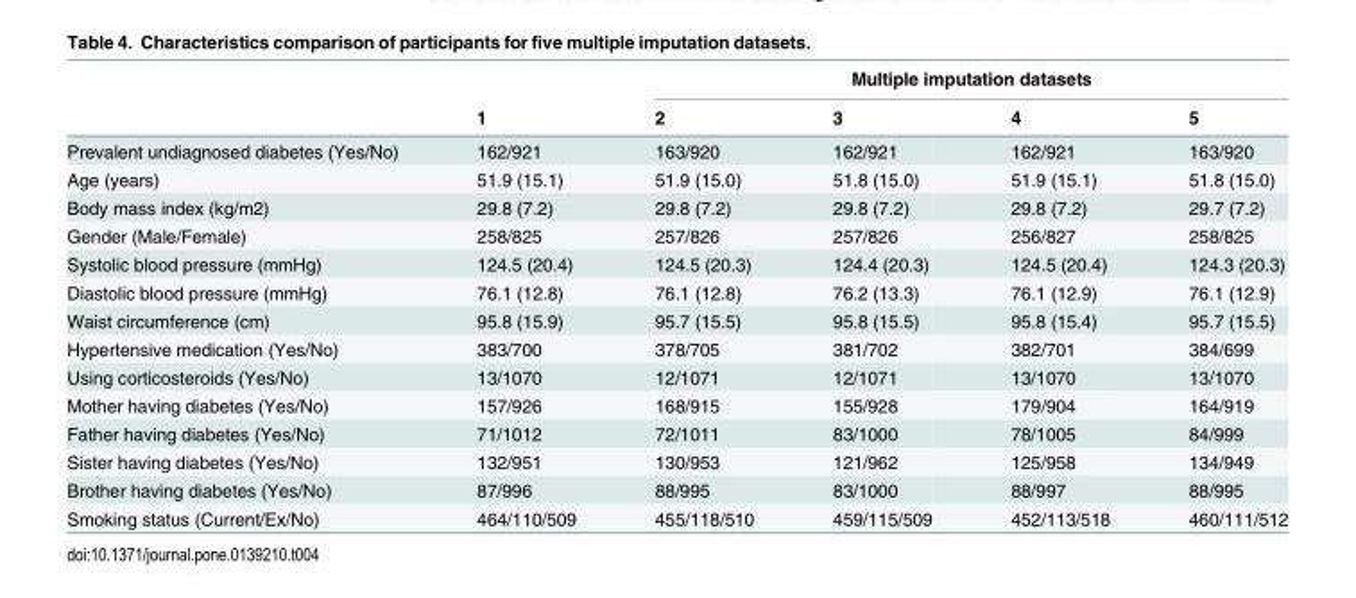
<table><thead><tr><td rowspan="2"></td><td rowspan="2">1</td><td colspan="4">Multiple imputation datasets</td></tr><tr><td>2</td><td>3</td><td>4</td><td>5</td></tr></thead><tbody><tr><td>Prevalent undiagnosed diabetes (Yes/No)</td><td>162/921</td><td>163/920</td><td>162/921</td><td>162/921</td><td>163/920</td></tr><tr><td>Age (years)</td><td>51.9 (15.1)</td><td>51.9 (15.0)</td><td>51.8 (15.0)</td><td>51.9 (15.1)</td><td>51.8 (15.0)</td></tr><tr><td>Body mass index (kg/m2)</td><td>29.8 (7.2)</td><td>29.8 (7.2)</td><td>29.8 (7.2)</td><td>29.8 (7.2)</td><td>29.7 (7.2)</td></tr><tr><td>Gender (Male/Female)</td><td>258/825</td><td>257/826</td><td>257/826</td><td>256/827</td><td>258/825</td></tr><tr><td>Systolic blood pressure (mmHg)</td><td>124.5 (20.4)</td><td>124.5 (20.3)</td><td>124.4 (20.3)</td><td>124.5 (20.4)</td><td>124.3 (20.3)</td></tr><tr><td>Diastolic blood pressure (mmHg)</td><td>76.1 (12.8)</td><td>76.1 (12.8)</td><td>76.2 (13.3)</td><td>76.1 (12.9)</td><td>76.1 (12.9)</td></tr><tr><td>Waist circumference (cm)</td><td>95.8 (15.9)</td><td>95.7 (15.5)</td><td>95.8 (15.5)</td><td>95.8 (15.4)</td><td>95.7 (15.5)</td></tr><tr><td>Hypertensive medication (Yes/No)</td><td>383/700</td><td>378/705</td><td>381/702</td><td>382/701</td><td>384/699</td></tr><tr><td>Using corticosteroids (Yes/No)</td><td>13/1070</td><td>12/1071</td><td>12/1071</td><td>13/1070</td><td>13/1070</td></tr><tr><td>Mother having diabetes (Yes/No)</td><td>157/926</td><td>168/915</td><td>155/928</td><td>179/904</td><td>164/919</td></tr><tr><td>Father having diabetes (Yes/No)</td><td>71/1012</td><td>72/1011</td><td>83/1000</td><td>78/1005</td><td>84/999</td></tr><tr><td>Sister having diabetes (Yes/No)</td><td>132/951</td><td>130/953</td><td>121/962</td><td>125/958</td><td>134/949</td></tr><tr><td>Brother having diabetes (Yes/No)</td><td>87/996</td><td>88/995</td><td>83/1000</td><td>88/997</td><td>88/995</td></tr><tr><td>Smoking status (Current/Ex/No)</td><td>464/110/509</td><td>455/118/510</td><td>459/115/509</td><td>452/113/518</td><td>460/111/512</td></tr></tbody></table>